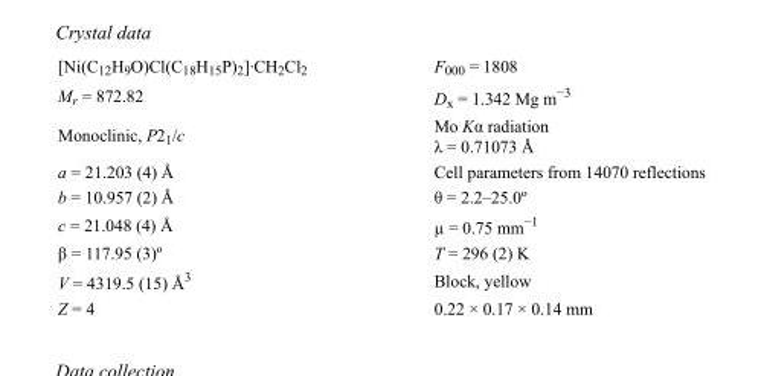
<table><tbody><tr><td>[Ni(C<sub>12</sub>H<sub>9</sub>O)Cl(C<sub>18</sub>H<sub>15</sub>P)<sub>2</sub>]·CH<sub>2</sub>Cl<sub>2</sub></td><td>F000 = 1808</td></tr><tr><td>M<sub>r</sub> = 872.82</td><td>D<sub>x</sub> = 1.342 Mg m<sup>−3</sup></td></tr><tr><td>Monoclinic, P2<sub>1</sub>/c</td><td>Mo Kα radiation λ = 0.71073 Å</td></tr><tr><td>a = 21.203 (4) Å</td><td>Cell parameters from 14070 reflections</td></tr><tr><td>b = 10.957 (2) Å</td><td>θ = 2.2–25.0º</td></tr><tr><td>c = 21.048 (4) Å</td><td>µ = 0.75 mm<sup>−1</sup></td></tr><tr><td>β = 117.95 (3)º</td><td>T = 296 (2) K</td></tr><tr><td>V = 4319.5 (15) Å<sup>3</sup></td><td>Block, yellow</td></tr><tr><td>Z = 4</td><td>0.22 × 0.17 × 0.14 mm</td></tr></tbody></table>